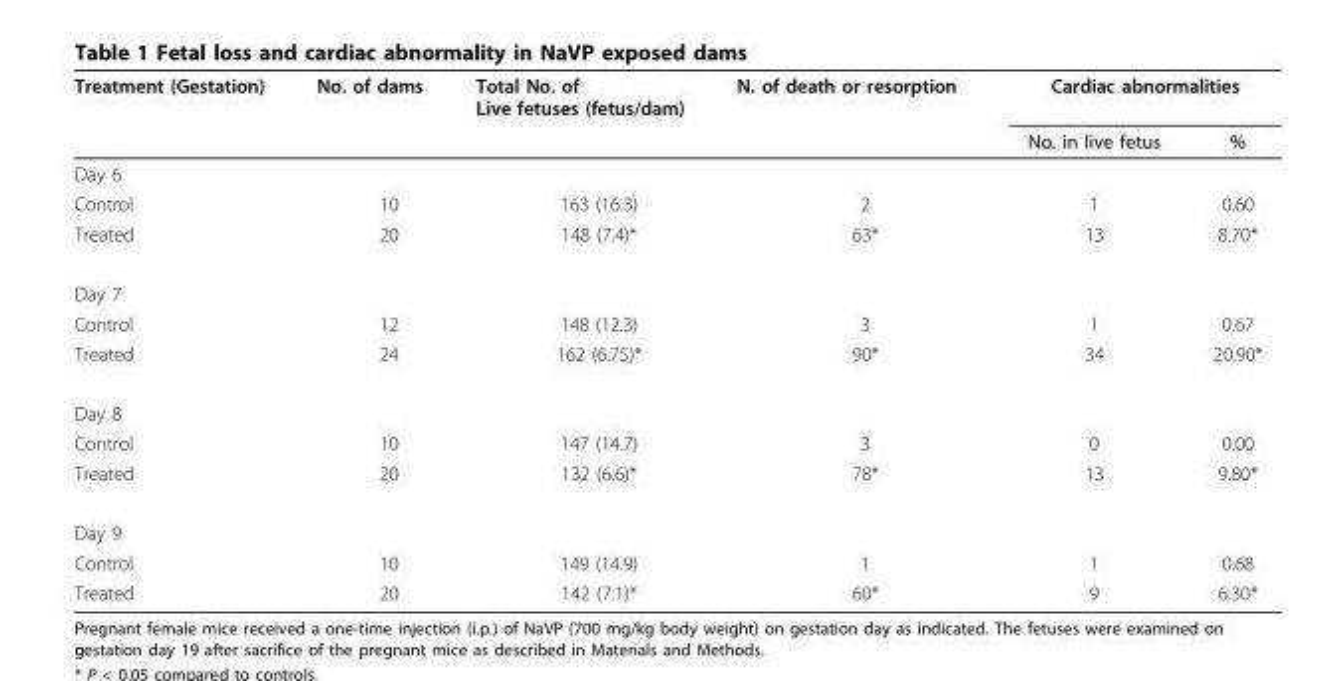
<table><thead><tr><td rowspan="2">Treatment (Gestation)</td><td rowspan="2">No. of dams</td><td rowspan="2">Total No. of Live fetuses (fetus/dam)</td><td rowspan="2">N. of death or resorption</td><td colspan="2">Cardiac abnormalities</td></tr><tr><td>No. in live fetus</td><td>%</td></tr></thead><tbody><tr><td colspan="6">Day 6</td></tr><tr><td>Control</td><td>10</td><td>163 (16.3)</td><td>2</td><td>1</td><td>0.60</td></tr><tr><td>Treated</td><td>20</td><td>148 (7.4)*</td><td>63*</td><td>13</td><td>8.70*</td></tr><tr><td colspan="6">Day 7</td></tr><tr><td>Control</td><td>12</td><td>148 (12.3)</td><td>3</td><td>1</td><td>0.67</td></tr><tr><td>Treated</td><td>24</td><td>162 (6.75)*</td><td>90*</td><td>34</td><td>20.90*</td></tr><tr><td colspan="6">Day 8</td></tr><tr><td>Control</td><td>10</td><td>147 (14.7)</td><td>3</td><td>0</td><td>0.00</td></tr><tr><td>Treated</td><td>20</td><td>132 (6.6)*</td><td>78*</td><td>13</td><td>9.80*</td></tr><tr><td colspan="6">Day 9</td></tr><tr><td>Control</td><td>10</td><td>149 (14.9)</td><td>1</td><td>1</td><td>0.68</td></tr><tr><td>Treated</td><td>20</td><td>142 (7.1)*</td><td>60*</td><td>9</td><td>6.30*</td></tr></tbody></table>